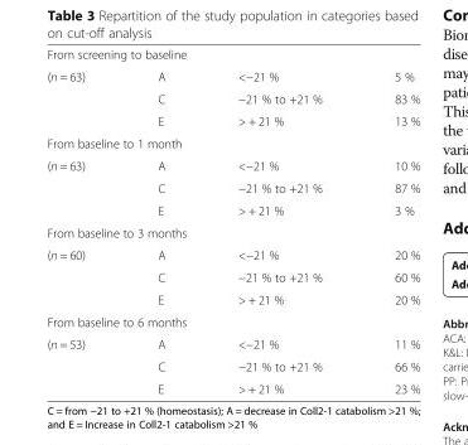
<table><tbody><tr><td colspan="4">From screening to baseline</td></tr><tr><td rowspan="3">(n = 63)</td><td>A</td><td>&lt;−21 %</td><td>5 %</td></tr><tr><td>C</td><td>−21 % to +21 %</td><td>83 %</td></tr><tr><td>E</td><td>&gt; + 21 %</td><td>13 %</td></tr><tr><td colspan="4">From baseline to 1 month</td></tr><tr><td rowspan="3">(n = 63)</td><td>A</td><td>&lt;−21 %</td><td>10 %</td></tr><tr><td>C</td><td>−21 % to +21 %</td><td>87 %</td></tr><tr><td>E</td><td>&gt; + 21 %</td><td>3 %</td></tr><tr><td colspan="4">From baseline to 3 months</td></tr><tr><td rowspan="3">(n = 60)</td><td>A</td><td>&lt;−21 %</td><td>20 %</td></tr><tr><td>C</td><td>−21 % to +21 %</td><td>60 %</td></tr><tr><td>E</td><td>&gt; + 21 %</td><td>20 %</td></tr><tr><td colspan="4">From baseline to 6 months</td></tr><tr><td rowspan="3">(n = 53)</td><td>A</td><td>&lt;−21 %</td><td>11 %</td></tr><tr><td>C</td><td>−21 % to +21 %</td><td>66 %</td></tr><tr><td>E</td><td>&gt; + 21 %</td><td>23 %</td></tr></tbody></table>